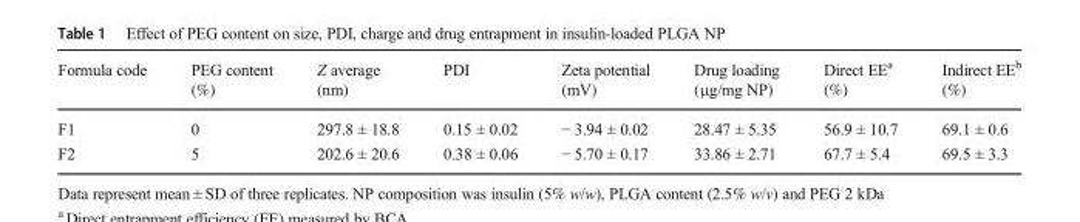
<table><thead><tr><td>Formula code</td><td>PEG content (%)</td><td>Z average (nm)</td><td>PDI</td><td>Zeta potential (mV)</td><td>Drug loading (μg/mg NP)</td><td>Direct EE<sup>a</sup> (%)</td><td>Indirect EE<sup>b</sup> (%)</td></tr></thead><tbody><tr><td>F1</td><td>0</td><td>297.8 ± 18.8</td><td>0.15 ± 0.02</td><td>− 3.94 ± 0.02</td><td>28.47 ± 5.35</td><td>56.9 ± 10.7</td><td>69.1 ± 0.6</td></tr><tr><td>F2</td><td>5</td><td>202.6 ± 20.6</td><td>0.38 ± 0.06</td><td>− 5.70 ± 0.17</td><td>33.86 ± 2.71</td><td>67.7 ± 5.4</td><td>69.5 ± 3.3</td></tr></tbody></table>